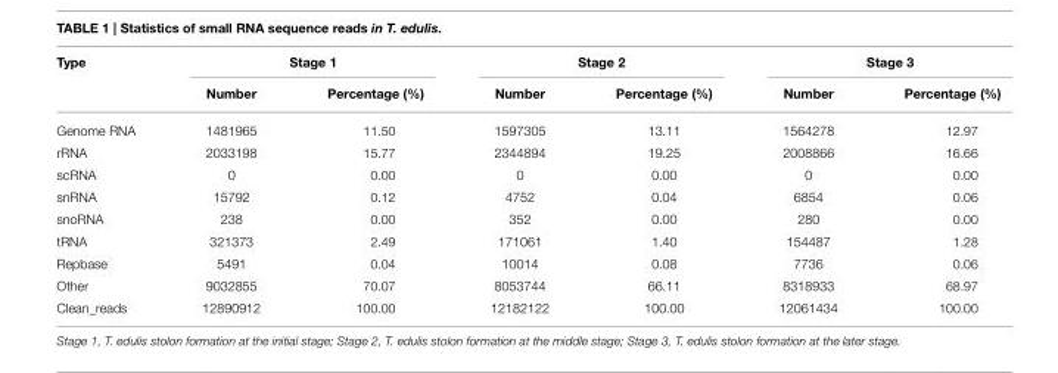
<table><thead><tr><td rowspan="2">Type</td><td colspan="2">Stage 1</td><td colspan="2">Stage 2</td><td colspan="2">Stage 3</td></tr><tr><td>Number</td><td>Percentage (%)</td><td>Number</td><td>Percentage (%)</td><td>Number</td><td>Percentage (%)</td></tr></thead><tbody><tr><td>Genome RNA</td><td>1481965</td><td>11.50</td><td>1597305</td><td>13.11</td><td>1564278</td><td>12.97</td></tr><tr><td>rRNA</td><td>2033198</td><td>15.77</td><td>2344894</td><td>19.25</td><td>2008866</td><td>16.66</td></tr><tr><td>scRNA</td><td>0</td><td>0.00</td><td>0</td><td>0.00</td><td>0</td><td>0.00</td></tr><tr><td>snRNA</td><td>15792</td><td>0.12</td><td>4752</td><td>0.04</td><td>6854</td><td>0.06</td></tr><tr><td>snoRNA</td><td>238</td><td>0.00</td><td>352</td><td>0.00</td><td>280</td><td>0.00</td></tr><tr><td>tRNA</td><td>321373</td><td>2.49</td><td>171061</td><td>1.40</td><td>154487</td><td>1.28</td></tr><tr><td>Repbase</td><td>5491</td><td>0.04</td><td>10014</td><td>0.08</td><td>7736</td><td>0.06</td></tr><tr><td>Other</td><td>9032855</td><td>70.07</td><td>8053744</td><td>66.11</td><td>8318933</td><td>68.97</td></tr><tr><td>Clean_reads</td><td>12890912</td><td>100.00</td><td>12182122</td><td>100.00</td><td>12061434</td><td>100.00</td></tr></tbody></table>